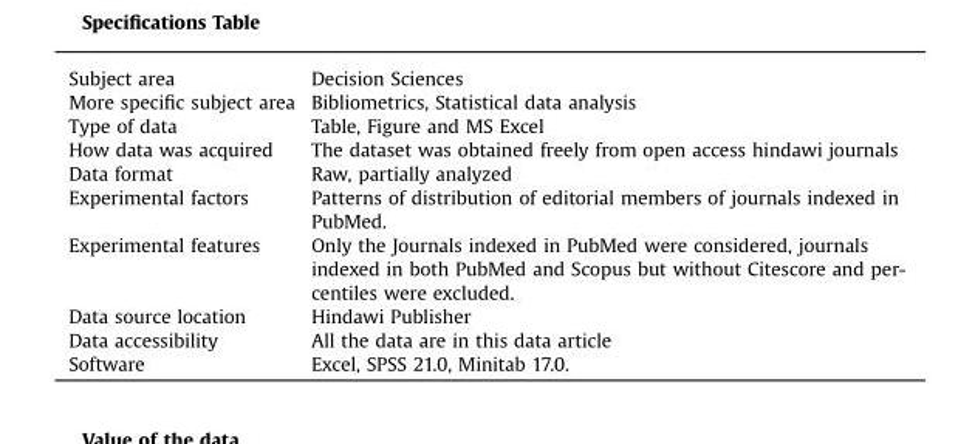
<table><tbody><tr><td>Subject area</td><td>Decision Sciences</td></tr><tr><td>More specific subject area</td><td>Bibliometrics, Statistical data analysis</td></tr><tr><td>Type of data</td><td>Table, Figure and MS Excel</td></tr><tr><td>How data was acquired</td><td>The dataset was obtained freely from open access hindawi journals</td></tr><tr><td>Data format</td><td>Raw, partially analyzed</td></tr><tr><td>Experimental factors</td><td>Patterns of distribution of editorial members of journals indexed in PubMed.</td></tr><tr><td>Experimental features</td><td>Only the Journals indexed in PubMed were considered, journals indexed in both PubMed and Scopus but without Citescore and per- centiles were excluded.</td></tr><tr><td>Data source location</td><td>Hindawi Publisher</td></tr><tr><td>Data accessibility</td><td>All the data are in this data article</td></tr><tr><td>Software</td><td>Excel, SPSS 21.0, Minitab 17.0.</td></tr></tbody></table>